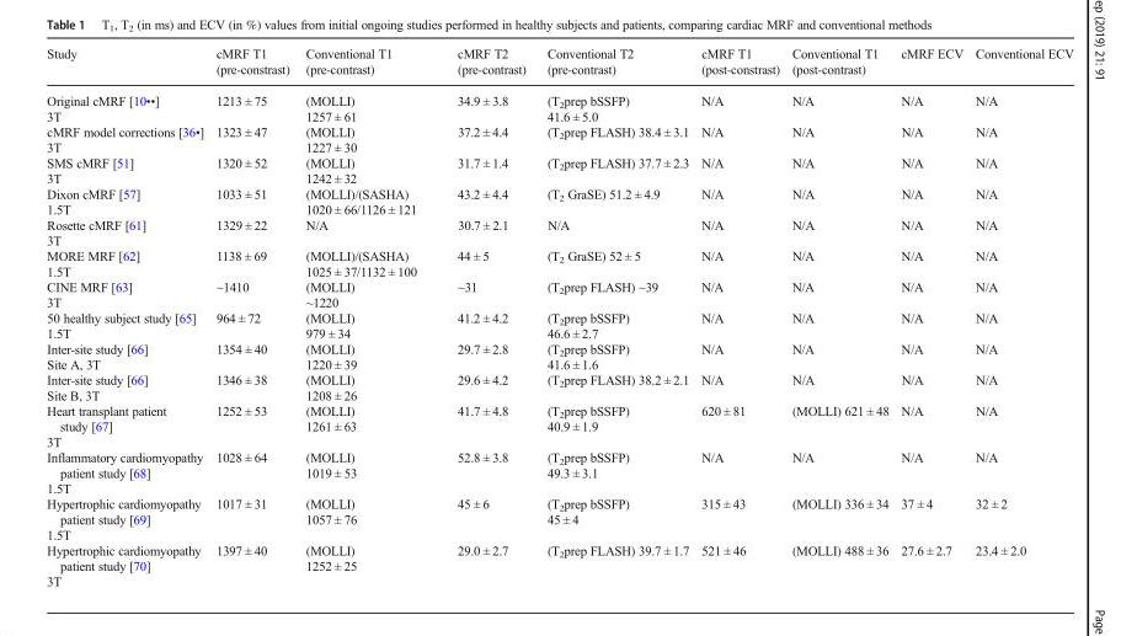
<table><thead><tr><td>Study</td><td>cMRF T1 (pre-constrast)</td><td>Conventional T1 (pre-contrast)</td><td>cMRF T2 (pre-contrast)</td><td>Conventional T2 (pre-contrast)</td><td>cMRF T1 (post-constrast)</td><td>Conventional T1 (post-contrast)</td><td>cMRF ECV</td><td>Conventional ECV</td></tr></thead><tbody><tr><td>Original cMRF [10••] 3T</td><td>1213 ± 75</td><td>(MOLLI) 1257 ± 61</td><td>34.9 ± 3.8</td><td>(T<sub>2</sub>prep bSSFP) 41.6 ± 5.0</td><td>N/A</td><td>N/A</td><td>N/A</td><td>N/A</td></tr><tr><td>cMRF model corrections [36•] 3T</td><td>1323 ± 47</td><td>(MOLLI) 1227 ± 30</td><td>37.2 ± 4.4</td><td>(T<sub>2</sub>prep FLASH) 38.4 ± 3.1</td><td>N/A</td><td>N/A</td><td>N/A</td><td>N/A</td></tr><tr><td>SMS cMRF [51] 3T</td><td>1320 ± 52</td><td>(MOLLI) 1242 ± 32</td><td>31.7 ± 1.4</td><td>(T<sub>2</sub>prep FLASH) 37.7 ± 2.3</td><td>N/A</td><td>N/A</td><td>N/A</td><td>N/A</td></tr><tr><td>Dixon cMRF [57] 1.5T</td><td>1033 ± 51</td><td>(MOLLI)/(SASHA) 1020 ± 66/1126 ± 121</td><td>43.2 ± 4.4</td><td>(T<sub>2</sub> GraSE) 51.2 ± 4.9</td><td>N/A</td><td>N/A</td><td>N/A</td><td>N/A</td></tr><tr><td>Rosette cMRF [61] 3T</td><td>1329 ± 22</td><td>N/A</td><td>30.7 ± 2.1</td><td>N/A</td><td>N/A</td><td>N/A</td><td>N/A</td><td>N/A</td></tr><tr><td>MORE MRF [62] 1.5T</td><td>1138 ± 69</td><td>(MOLLI)/(SASHA) 1025 ± 37/1132 ± 100</td><td>44 ± 5</td><td>(T<sub>2</sub> GraSE) 52 ± 5</td><td>N/A</td><td>N/A</td><td>N/A</td><td>N/A</td></tr><tr><td>CINE MRF [63] 3T</td><td>~1410</td><td>(MOLLI) ~1220</td><td>~31</td><td>(T<sub>2</sub>prep FLASH) ~39</td><td>N/A</td><td>N/A</td><td>N/A</td><td>N/A</td></tr><tr><td>50 healthy subject study [65] 1.5T</td><td>964 ± 72</td><td>(MOLLI) 979 ± 34</td><td>41.2 ± 4.2</td><td>(T<sub>2</sub>prep bSSFP) 46.6 ± 2.7</td><td>N/A</td><td>N/A</td><td>N/A</td><td>N/A</td></tr><tr><td>Inter-site study [66] Site A, 3T</td><td>1354 ± 40</td><td>(MOLLI) 1220 ± 39</td><td>29.7 ± 2.8</td><td>(T<sub>2</sub>prep bSSFP) 41.6 ± 1.6</td><td>N/A</td><td>N/A</td><td>N/A</td><td>N/A</td></tr><tr><td>Inter-site study [66] Site B, 3T</td><td>1346 ± 38</td><td>(MOLLI) 1208 ± 26</td><td>29.6 ± 4.2</td><td>(T<sub>2</sub>prep FLASH) 38.2 ± 2.1</td><td>N/A</td><td>N/A</td><td>N/A</td><td>N/A</td></tr><tr><td>Heart transplant patient study [67] 3T</td><td>1252 ± 53</td><td>(MOLLI) 1261 ± 63</td><td>41.7 ± 4.8</td><td>(T<sub>2</sub>prep bSSFP) 40.9 ± 1.9</td><td>620 ± 81</td><td>(MOLLI) 621 ± 48</td><td>N/A</td><td>N/A</td></tr><tr><td>Inflammatory cardiomyopathy patient study [68] 1.5T</td><td>1028 ± 64</td><td>(MOLLI) 1019 ± 53</td><td>52.8 ± 3.8</td><td>(T<sub>2</sub>prep bSSFP) 49.3 ± 3.1</td><td>N/A</td><td>N/A</td><td>N/A</td><td>N/A</td></tr><tr><td>Hypertrophic cardiomyopathy patient study [69] 1.5T</td><td>1017 ± 31</td><td>(MOLLI) 1057 ± 76</td><td>45 ± 6</td><td>(T<sub>2</sub>prep bSSFP) 45 ± 4</td><td>315 ± 43</td><td>(MOLLI) 336 ± 34</td><td>37 ± 4</td><td>32 ± 2</td></tr><tr><td>Hypertrophic cardiomyopathy patient study [70] 3T</td><td>1397 ± 40</td><td>(MOLLI) 1252 ± 25</td><td>29.0 ± 2.7</td><td>(T<sub>2</sub>prep FLASH) 39.7 ± 1.7</td><td>521 ± 46</td><td>(MOLLI) 488 ± 36</td><td>27.6 ± 2.7</td><td>23.4 ± 2.0</td></tr></tbody></table>